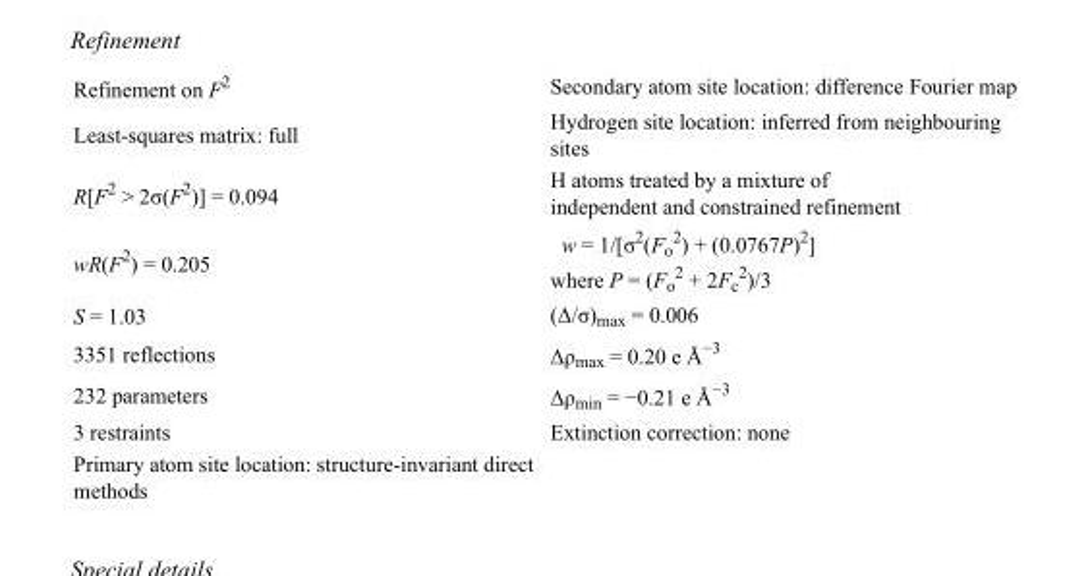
<table><tbody><tr><td>Refinement on F<sup>2</sup></td><td>Secondary atom site location: difference Fourier map</td></tr><tr><td>Least-squares matrix: full</td><td>Hydrogen site location: inferred from neighbouring sites</td></tr><tr><td>R[F<sup>2</sup> &gt; 2σ(F<sup>2</sup>)] = 0.094</td><td>H atoms treated by a mixture of independent and constrained refinement</td></tr><tr><td>wR(F<sup>2</sup>) = 0.205</td><td>w = 1/[σ<sup>2</sup>(F<sub>o</sub> <sup>2</sup>) + (0.0767P)<sup>2</sup>] where P = (F<sub>o</sub> <sup>2</sup> + 2F<sub>c</sub> <sup>2</sup>)/3</td></tr><tr><td>S = 1.03</td><td>(Δ/σ)<sub>max</sub> = 0.006</td></tr><tr><td>3351 reflections</td><td>Δρ<sub>max</sub> = 0.20 e Å<sup>−3</sup></td></tr><tr><td>232 parameters</td><td>Δρ<sub>min</sub> = −0.21 e Å<sup>−3</sup></td></tr><tr><td>3 restraints</td><td>Extinction correction: none</td></tr><tr><td>Primary atom site location: structure-invariant direct methods</td><td></td></tr></tbody></table>